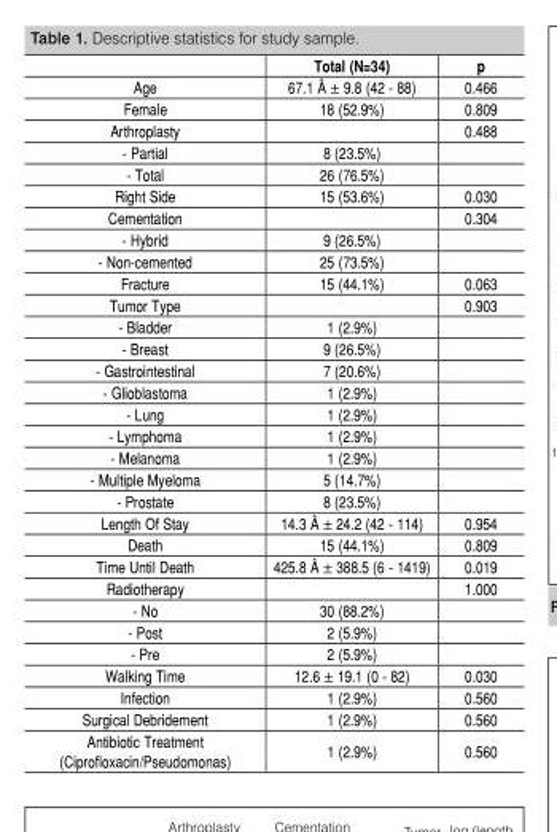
<table><thead><tr><td></td><td>Total (N=34)</td><td>p</td></tr></thead><tbody><tr><td>Age</td><td>67.1 Â ± 9.8 (42 - 88)</td><td>0.466</td></tr><tr><td>Female</td><td>18 (52.9%)</td><td>0.809</td></tr><tr><td>Arthroplasty</td><td></td><td>0.488</td></tr><tr><td>- Partial</td><td>8 (23.5%)</td><td></td></tr><tr><td>- Total</td><td>26 (76.5%)</td><td></td></tr><tr><td>Right Side</td><td>15 (53.6%)</td><td>0.030</td></tr><tr><td>Cementation</td><td></td><td>0.304</td></tr><tr><td>- Hybrid</td><td>9 (26.5%)</td><td></td></tr><tr><td>- Non-cemented</td><td>25 (73.5%)</td><td></td></tr><tr><td>Fracture</td><td>15 (44.1%)</td><td>0.063</td></tr><tr><td>Tumor Type</td><td></td><td>0.903</td></tr><tr><td>- Bladder</td><td>1 (2.9%)</td><td></td></tr><tr><td>- Breast</td><td>9 (26.5%)</td><td></td></tr><tr><td>- Gastrointestinal</td><td>7 (20.6%)</td><td></td></tr><tr><td>- Glioblastoma</td><td>1 (2.9%)</td><td></td></tr><tr><td>- Lung</td><td>1 (2.9%)</td><td></td></tr><tr><td>- Lymphoma</td><td>1 (2.9%)</td><td></td></tr><tr><td>- Melanoma</td><td>1 (2.9%)</td><td></td></tr><tr><td>- Multiple Myeloma</td><td>5 (14.7%)</td><td></td></tr><tr><td>- Prostate</td><td>8 (23.5%)</td><td></td></tr><tr><td>Length Of Stay</td><td>14.3 Â ± 24.2 (42 - 114)</td><td>0.954</td></tr><tr><td>Death</td><td>15 (44.1%)</td><td>0.809</td></tr><tr><td>Time Until Death</td><td>425.8 Â ± 388.5 (6 - 1419)</td><td>0.019</td></tr><tr><td>Radiotherapy</td><td></td><td>1.000</td></tr><tr><td>- No</td><td>30 (88.2%)</td><td></td></tr><tr><td>- Post</td><td>2 (5.9%)</td><td></td></tr><tr><td>- Pre</td><td>2 (5.9%)</td><td></td></tr><tr><td>Walking Time</td><td>12.6 ± 19.1 (0 - 82)</td><td>0.030</td></tr><tr><td>Infection</td><td>1 (2.9%)</td><td>0.560</td></tr><tr><td>Surgical Debridement</td><td>1 (2.9%)</td><td>0.560</td></tr><tr><td>Antibiotic Treatment (Ciprofloxacin/Pseudomonas)</td><td>1 (2.9%)</td><td>0.560</td></tr></tbody></table>